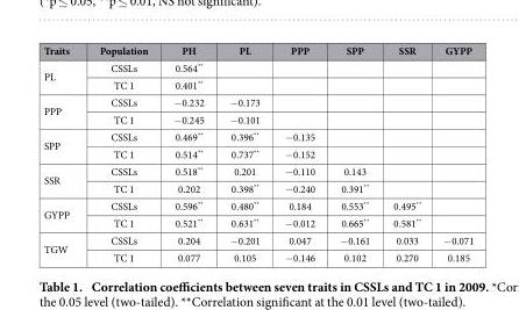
<table><thead><tr><td>Traits</td><td>Population</td><td>PH</td><td>PL</td><td>PPP</td><td>SPP</td><td>SSR</td><td>GYPP</td></tr></thead><tbody><tr><td rowspan="2">PL</td><td>CSSLs</td><td>0.564**</td><td></td><td></td><td></td><td></td><td></td></tr><tr><td>TC 1</td><td>0.401**</td><td></td><td></td><td></td><td></td><td></td></tr><tr><td rowspan="2">PPP</td><td>CSSLs</td><td>− 0.232</td><td>− 0.173</td><td></td><td></td><td></td><td></td></tr><tr><td>TC 1</td><td>− 0.245</td><td>− 0.101</td><td></td><td></td><td></td><td></td></tr><tr><td rowspan="2">SPP</td><td>CSSLs</td><td>0.469**</td><td>0.396**</td><td>− 0.135</td><td></td><td></td><td></td></tr><tr><td>TC 1</td><td>0.514**</td><td>0.737**</td><td>− 0.152</td><td></td><td></td><td></td></tr><tr><td rowspan="2">SSR</td><td>CSSLs</td><td>0.518**</td><td>0.201</td><td>− 0.110</td><td>0.143</td><td></td><td></td></tr><tr><td>TC 1</td><td>0.202</td><td>0.398**</td><td>− 0.240</td><td>0.391**</td><td></td><td></td></tr><tr><td rowspan="2">GYPP</td><td>CSSLs</td><td>0.596**</td><td>0.480**</td><td>0.184</td><td>0.553**</td><td>0.495**</td><td></td></tr><tr><td>TC 1</td><td>0.521**</td><td>0.631**</td><td>− 0.012</td><td>0.665**</td><td>0.581**</td><td></td></tr><tr><td rowspan="2">TGW</td><td>CSSLs</td><td>0.204</td><td>− 0.201</td><td>0.047</td><td>− 0.161</td><td>0.033</td><td>− 0.071</td></tr><tr><td>TC 1</td><td>0.077</td><td>0.105</td><td>− 0.146</td><td>0.102</td><td>0.270</td><td>0.185</td></tr></tbody></table>